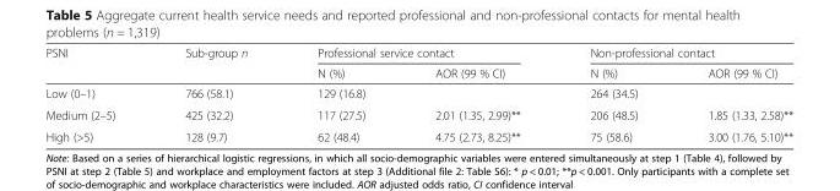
<table><thead><tr><td rowspan="2">PSNI</td><td rowspan="2">Sub-group n</td><td colspan="2">Professional service contact</td><td colspan="2">Non-professional contact</td></tr><tr><td>N (%)</td><td>AOR (99 % CI)</td><td>N (%)</td><td>AOR (99 % CI)</td></tr></thead><tbody><tr><td>Low (0–1)</td><td>766 (58.1)</td><td>129 (16.8)</td><td></td><td>264 (34.5)</td><td></td></tr><tr><td>Medium (2–5)</td><td>425 (32.2)</td><td>117 (27.5)</td><td>2.01 (1.35, 2.99)**</td><td>206 (48.5)</td><td>1.85 (1.33, 2.58)**</td></tr><tr><td>High (&gt;5)</td><td>128 (9.7)</td><td>62 (48.4)</td><td>4.75 (2.73, 8.25)**</td><td>75 (58.6)</td><td>3.00 (1.76, 5.10)**</td></tr></tbody></table>